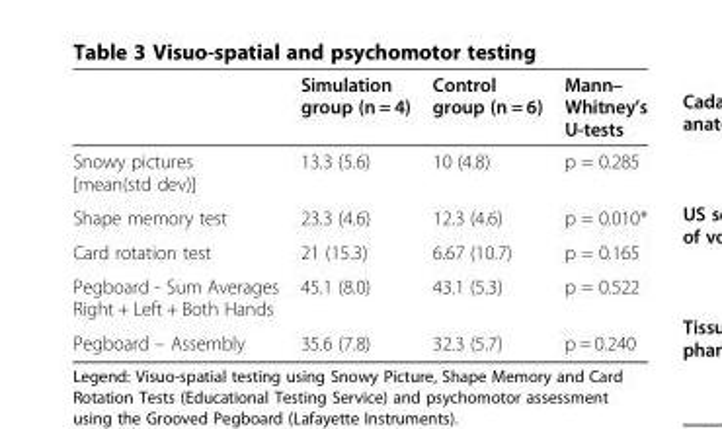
<table><thead><tr><td></td><td>Simulation group (n = 4)</td><td>Control group (n = 6)</td><td>Mann– Whitney’s U-tests</td></tr></thead><tbody><tr><td>Snowy pictures [mean(std dev)]</td><td>13.3 (5.6)</td><td>10 (4.8)</td><td>p = 0.285</td></tr><tr><td>Shape memory test</td><td>23.3 (4.6)</td><td>12.3 (4.6)</td><td>p = 0.010*</td></tr><tr><td>Card rotation test</td><td>21 (15.3)</td><td>6.67 (10.7)</td><td>p = 0.165</td></tr><tr><td>Pegboard - Sum Averages Right + Left + Both Hands</td><td>45.1 (8.0)</td><td>43.1 (5.3)</td><td>p = 0.522</td></tr><tr><td>Pegboard – Assembly</td><td>35.6 (7.8)</td><td>32.3 (5.7)</td><td>p = 0.240</td></tr></tbody></table>